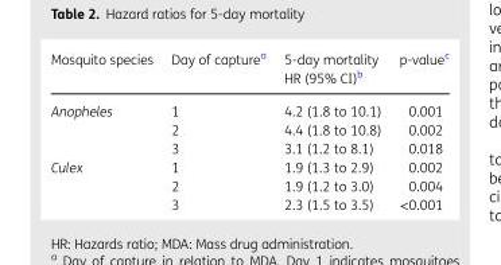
<table><thead><tr><td>Mosquito species</td><td>Day of capture<sup>a</sup></td><td>5-day mortality HR (95% CI)<sup>b</sup></td><td>p-value<sup>c</sup></td></tr></thead><tbody><tr><td rowspan="3">Anopheles</td><td>1</td><td>4.2 (1.8 to 10.1)</td><td>0.001</td></tr><tr><td>2</td><td>4.4 (1.8 to 10.8)</td><td>0.002</td></tr><tr><td>3</td><td>3.1 (1.2 to 8.1)</td><td>0.018</td></tr><tr><td rowspan="3">Culex</td><td>1</td><td>1.9 (1.3 to 2.9)</td><td>0.002</td></tr><tr><td>2</td><td>1.9 (1.2 to 3.0)</td><td>0.004</td></tr><tr><td>3</td><td>2.3 (1.5 to 3.5)</td><td>&lt;0.001</td></tr></tbody></table>